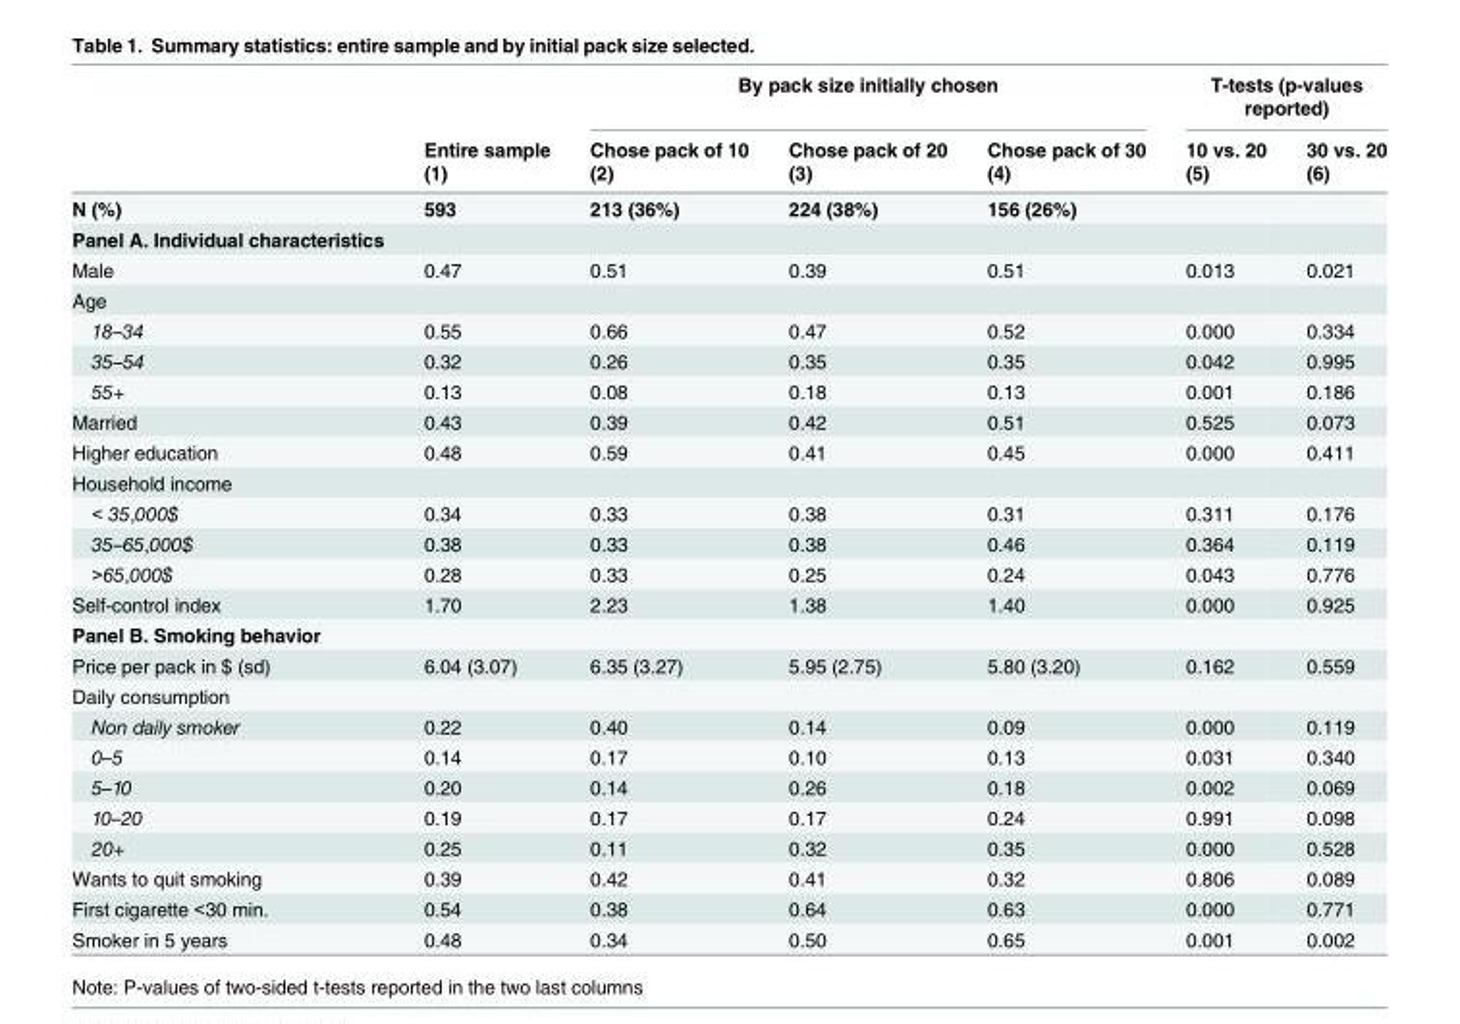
<table><thead><tr><td rowspan="3"></td><td rowspan="3">Entire sample (1)</td><td colspan="3">By pack size initially chosen</td><td colspan="2">T-tests (p-values reported)</td></tr><tr><td rowspan="2">Chose pack of 10 (2)</td><td rowspan="2">Chose pack of 20 (3)</td><td rowspan="2">Chose pack of 30 (4)</td><td rowspan="2">10 vs. 20 (5)</td><td rowspan="2">30 vs. 20 (6)</td></tr><tr></tr></thead><tbody><tr><td>N (%)</td><td>593</td><td>213 (36%)</td><td>224 (38%)</td><td>156 (26%)</td><td></td><td></td></tr><tr><td colspan="7">Panel A. Individual characteristics</td></tr><tr><td>Male</td><td>0.47</td><td>0.51</td><td>0.39</td><td>0.51</td><td>0.013</td><td>0.021</td></tr><tr><td colspan="7">Age</td></tr><tr><td>18–34</td><td>0.55</td><td>0.66</td><td>0.47</td><td>0.52</td><td>0.000</td><td>0.334</td></tr><tr><td>35–54</td><td>0.32</td><td>0.26</td><td>0.35</td><td>0.35</td><td>0.042</td><td>0.995</td></tr><tr><td>55+</td><td>0.13</td><td>0.08</td><td>0.18</td><td>0.13</td><td>0.001</td><td>0.186</td></tr><tr><td>Married</td><td>0.43</td><td>0.39</td><td>0.42</td><td>0.51</td><td>0.525</td><td>0.073</td></tr><tr><td>Higher education</td><td>0.48</td><td>0.59</td><td>0.41</td><td>0.45</td><td>0.000</td><td>0.411</td></tr><tr><td colspan="7">Household income</td></tr><tr><td>&lt; 35,000$</td><td>0.34</td><td>0.33</td><td>0.38</td><td>0.31</td><td>0.311</td><td>0.176</td></tr><tr><td>35–65,000$</td><td>0.38</td><td>0.33</td><td>0.38</td><td>0.46</td><td>0.364</td><td>0.119</td></tr><tr><td>&gt;65,000$</td><td>0.28</td><td>0.33</td><td>0.25</td><td>0.24</td><td>0.043</td><td>0.776</td></tr><tr><td>Self-control index</td><td>1.70</td><td>2.23</td><td>1.38</td><td>1.40</td><td>0.000</td><td>0.925</td></tr><tr><td colspan="7">Panel B. Smoking behavior</td></tr><tr><td>Price per pack in $ (sd)</td><td>6.04 (3.07)</td><td>6.35 (3.27)</td><td>5.95 (2.75)</td><td>5.80 (3.20)</td><td>0.162</td><td>0.559</td></tr><tr><td colspan="7">Daily consumption</td></tr><tr><td>Non daily smoker</td><td>0.22</td><td>0.40</td><td>0.14</td><td>0.09</td><td>0.000</td><td>0.119</td></tr><tr><td>0–5</td><td>0.14</td><td>0.17</td><td>0.10</td><td>0.13</td><td>0.031</td><td>0.340</td></tr><tr><td>5–10</td><td>0.20</td><td>0.14</td><td>0.26</td><td>0.18</td><td>0.002</td><td>0.069</td></tr><tr><td>10–20</td><td>0.19</td><td>0.17</td><td>0.17</td><td>0.24</td><td>0.991</td><td>0.098</td></tr><tr><td>20+</td><td>0.25</td><td>0.11</td><td>0.32</td><td>0.35</td><td>0.000</td><td>0.528</td></tr><tr><td>Wants to quit smoking</td><td>0.39</td><td>0.42</td><td>0.41</td><td>0.32</td><td>0.806</td><td>0.089</td></tr><tr><td>First cigarette &lt;30 min.</td><td>0.54</td><td>0.38</td><td>0.64</td><td>0.63</td><td>0.000</td><td>0.771</td></tr><tr><td>Smoker in 5 years</td><td>0.48</td><td>0.34</td><td>0.50</td><td>0.65</td><td>0.001</td><td>0.002</td></tr></tbody></table>